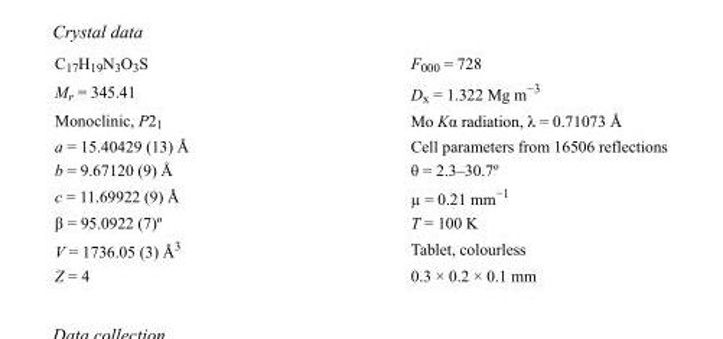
<table><tbody><tr><td>C<sub>17</sub>H<sub>19</sub>N<sub>3</sub>O<sub>3</sub>S</td><td>F000 = 728</td></tr><tr><td>M<sub>r</sub> = 345.41</td><td>D<sub>x</sub> = 1.322 Mg m<sup>−3</sup></td></tr><tr><td>Monoclinic, P2<sub>1</sub></td><td>Mo Kα radiation, λ = 0.71073 Å</td></tr><tr><td>a = 15.40429 (13) Å</td><td>Cell parameters from 16506 reflections</td></tr><tr><td>b = 9.67120 (9) Å</td><td>θ = 2.3–30.7º</td></tr><tr><td>c = 11.69922 (9) Å</td><td>µ = 0.21 mm<sup>−1</sup></td></tr><tr><td>β = 95.0922 (7)º</td><td>T = 100 K</td></tr><tr><td>V = 1736.05 (3) Å<sup>3</sup></td><td>Tablet, colourless</td></tr><tr><td>Z = 4</td><td>0.3 × 0.2 × 0.1 mm</td></tr></tbody></table>